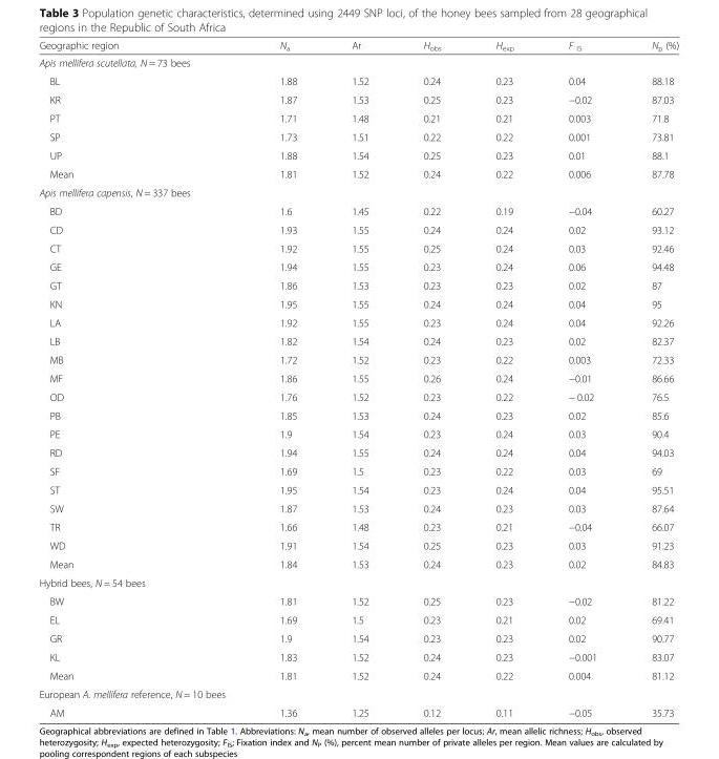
<table><thead><tr><td>Geographic region</td><td>N<sub>a</sub></td><td>Ar</td><td>H<sub>obs</sub></td><td>H<sub>exp</sub></td><td>F <sub>IS</sub></td><td>N<sub>p</sub> (%)</td></tr></thead><tbody><tr><td colspan="7">Apis mellifera scutellata, N = 73 bees</td></tr><tr><td>BL</td><td>1.88</td><td>1.52</td><td>0.24</td><td>0.23</td><td>0.04</td><td>88.18</td></tr><tr><td>KR</td><td>1.87</td><td>1.53</td><td>0.25</td><td>0.23</td><td>−0.02</td><td>87.03</td></tr><tr><td>PT</td><td>1.71</td><td>1.48</td><td>0.21</td><td>0.21</td><td>0.003</td><td>71.8</td></tr><tr><td>SP</td><td>1.73</td><td>1.51</td><td>0.22</td><td>0.22</td><td>0.001</td><td>73.81</td></tr><tr><td>UP</td><td>1.88</td><td>1.54</td><td>0.25</td><td>0.23</td><td>0.01</td><td>88.1</td></tr><tr><td>Mean</td><td>1.81</td><td>1.52</td><td>0.24</td><td>0.22</td><td>0.006</td><td>87.78</td></tr><tr><td colspan="7">Apis mellifera capensis, N = 337 bees</td></tr><tr><td>BD</td><td>1.6</td><td>1.45</td><td>0.22</td><td>0.19</td><td>−0.04</td><td>60.27</td></tr><tr><td>CD</td><td>1.93</td><td>1.55</td><td>0.24</td><td>0.24</td><td>0.02</td><td>93.12</td></tr><tr><td>CT</td><td>1.92</td><td>1.55</td><td>0.25</td><td>0.24</td><td>0.03</td><td>92.46</td></tr><tr><td>GE</td><td>1.94</td><td>1.55</td><td>0.23</td><td>0.24</td><td>0.06</td><td>94.48</td></tr><tr><td>GT</td><td>1.86</td><td>1.53</td><td>0.23</td><td>0.23</td><td>0.02</td><td>87</td></tr><tr><td>KN</td><td>1.95</td><td>1.55</td><td>0.24</td><td>0.24</td><td>0.04</td><td>95</td></tr><tr><td>LA</td><td>1.92</td><td>1.55</td><td>0.23</td><td>0.24</td><td>0.04</td><td>92.26</td></tr><tr><td>LB</td><td>1.82</td><td>1.54</td><td>0.24</td><td>0.23</td><td>0.02</td><td>82.37</td></tr><tr><td>MB</td><td>1.72</td><td>1.52</td><td>0.23</td><td>0.22</td><td>0.003</td><td>72.33</td></tr><tr><td>MF</td><td>1.86</td><td>1.55</td><td>0.26</td><td>0.24</td><td>−0.01</td><td>86.66</td></tr><tr><td>OD</td><td>1.76</td><td>1.52</td><td>0.23</td><td>0.22</td><td>− 0.02</td><td>76.5</td></tr><tr><td>PB</td><td>1.85</td><td>1.53</td><td>0.24</td><td>0.23</td><td>0.02</td><td>85.6</td></tr><tr><td>PE</td><td>1.9</td><td>1.54</td><td>0.23</td><td>0.24</td><td>0.03</td><td>90.4</td></tr><tr><td>RD</td><td>1.94</td><td>1.55</td><td>0.24</td><td>0.24</td><td>0.04</td><td>94.03</td></tr><tr><td>SF</td><td>1.69</td><td>1.5</td><td>0.23</td><td>0.22</td><td>0.03</td><td>69</td></tr><tr><td>ST</td><td>1.95</td><td>1.54</td><td>0.23</td><td>0.24</td><td>0.04</td><td>95.51</td></tr><tr><td>SW</td><td>1.87</td><td>1.53</td><td>0.24</td><td>0.23</td><td>0.03</td><td>87.64</td></tr><tr><td>TR</td><td>1.66</td><td>1.48</td><td>0.23</td><td>0.21</td><td>−0.04</td><td>66.07</td></tr><tr><td>WD</td><td>1.91</td><td>1.54</td><td>0.25</td><td>0.23</td><td>0.03</td><td>91.23</td></tr><tr><td>Mean</td><td>1.84</td><td>1.53</td><td>0.24</td><td>0.23</td><td>0.02</td><td>84.83</td></tr><tr><td colspan="7">Hybrid bees, N = 54 bees</td></tr><tr><td>BW</td><td>1.81</td><td>1.52</td><td>0.25</td><td>0.23</td><td>−0.02</td><td>81.22</td></tr><tr><td>EL</td><td>1.69</td><td>1.5</td><td>0.23</td><td>0.21</td><td>0.02</td><td>69.41</td></tr><tr><td>GR</td><td>1.9</td><td>1.54</td><td>0.23</td><td>0.23</td><td>0.02</td><td>90.77</td></tr><tr><td>KL</td><td>1.83</td><td>1.52</td><td>0.24</td><td>0.23</td><td>−0.001</td><td>83.07</td></tr><tr><td>Mean</td><td>1.81</td><td>1.52</td><td>0.24</td><td>0.22</td><td>0.004</td><td>81.12</td></tr><tr><td colspan="7">European A. mellifera reference, N = 10 bees</td></tr><tr><td>AM</td><td>1.36</td><td>1.25</td><td>0.12</td><td>0.11</td><td>−0.05</td><td>35.73</td></tr></tbody></table>